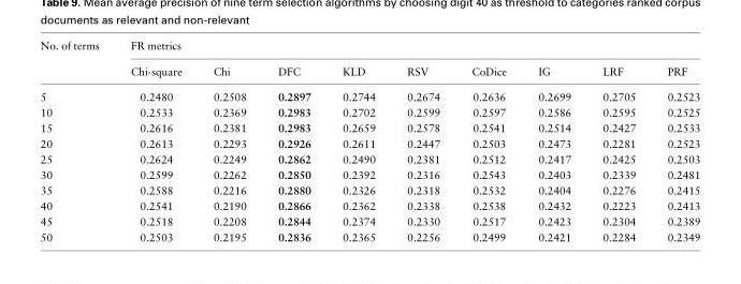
<table><thead><tr><td rowspan="2">No. of terms</td><td colspan="9">FR metrics</td></tr><tr><td>Chi-square</td><td>Chi</td><td>DFC</td><td>KLD</td><td>RSV</td><td>CoDice</td><td>IG</td><td>LRF</td><td>PRF</td></tr></thead><tbody><tr><td>5</td><td>0.2480</td><td>0.2508</td><td>0.2897</td><td>0.2744</td><td>0.2674</td><td>0.2636</td><td>0.2699</td><td>0.2705</td><td>0.2523</td></tr><tr><td>10</td><td>0.2533</td><td>0.2369</td><td>0.2983</td><td>0.2702</td><td>0.2599</td><td>0.2597</td><td>0.2586</td><td>0.2595</td><td>0.2525</td></tr><tr><td>15</td><td>0.2616</td><td>0.2381</td><td>0.2983</td><td>0.2659</td><td>0.2578</td><td>0.2541</td><td>0.2514</td><td>0.2427</td><td>0.2533</td></tr><tr><td>20</td><td>0.2613</td><td>0.2293</td><td>0.2926</td><td>0.2611</td><td>0.2447</td><td>0.2503</td><td>0.2473</td><td>0.2281</td><td>0.2523</td></tr><tr><td>25</td><td>0.2624</td><td>0.2249</td><td>0.2862</td><td>0.2490</td><td>0.2381</td><td>0.2512</td><td>0.2417</td><td>0.2425</td><td>0.2503</td></tr><tr><td>30</td><td>0.2599</td><td>0.2262</td><td>0.2850</td><td>0.2392</td><td>0.2316</td><td>0.2543</td><td>0.2403</td><td>0.2339</td><td>0.2481</td></tr><tr><td>35</td><td>0.2588</td><td>0.2216</td><td>0.2880</td><td>0.2326</td><td>0.2318</td><td>0.2532</td><td>0.2404</td><td>0.2276</td><td>0.2415</td></tr><tr><td>40</td><td>0.2541</td><td>0.2190</td><td>0.2866</td><td>0.2362</td><td>0.2338</td><td>0.2538</td><td>0.2432</td><td>0.2223</td><td>0.2413</td></tr><tr><td>45</td><td>0.2518</td><td>0.2208</td><td>0.2844</td><td>0.2374</td><td>0.2330</td><td>0.2517</td><td>0.2423</td><td>0.2304</td><td>0.2389</td></tr><tr><td>50</td><td>0.2503</td><td>0.2195</td><td>0.2836</td><td>0.2365</td><td>0.2256</td><td>0.2499</td><td>0.2421</td><td>0.2284</td><td>0.2349</td></tr></tbody></table>